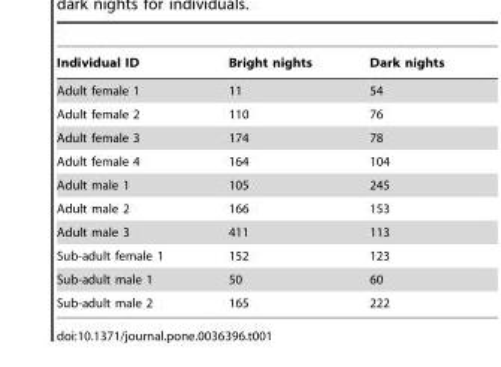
<table><thead><tr><td>Individual ID</td><td>Bright nights</td><td>Dark nights</td></tr></thead><tbody><tr><td>Adult female 1</td><td>11</td><td>54</td></tr><tr><td>Adult female 2</td><td>110</td><td>76</td></tr><tr><td>Adult female 3</td><td>174</td><td>78</td></tr><tr><td>Adult female 4</td><td>164</td><td>104</td></tr><tr><td>Adult male 1</td><td>105</td><td>245</td></tr><tr><td>Adult male 2</td><td>166</td><td>153</td></tr><tr><td>Adult male 3</td><td>411</td><td>113</td></tr><tr><td>Sub-adult female 1</td><td>152</td><td>123</td></tr><tr><td>Sub-adult male 1</td><td>50</td><td>60</td></tr><tr><td>Sub-adult male 2</td><td>165</td><td>222</td></tr></tbody></table>